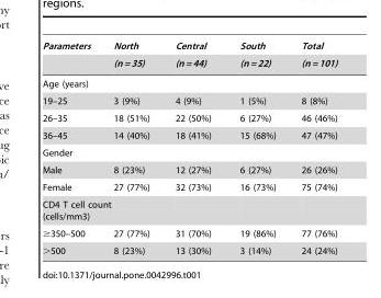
<table><thead><tr><td rowspan="2">Parameters</td><td rowspan="2">North (n = 35)</td><td rowspan="2">Central (n = 44)</td><td rowspan="2">South (n = 22)</td><td rowspan="2">Total (n = 101)</td></tr><tr></tr></thead><tbody><tr><td colspan="5">Age (years)</td></tr><tr><td>19–25</td><td>3 (9%)</td><td>4 (9%)</td><td>1 (5%)</td><td>8 (8%)</td></tr><tr><td>26–35</td><td>18 (51%)</td><td>22 (50%)</td><td>6 (27%)</td><td>46 (46%)</td></tr><tr><td>36–45</td><td>14 (40%)</td><td>18 (41%)</td><td>15 (68%)</td><td>47 (47%)</td></tr><tr><td colspan="5">Gender</td></tr><tr><td>Male</td><td>8 (23%)</td><td>12 (27%)</td><td>6 (27%)</td><td>26 (26%)</td></tr><tr><td>Female</td><td>27 (77%)</td><td>32 (73%)</td><td>16 (73%)</td><td>75 (74%)</td></tr><tr><td colspan="5">CD4 T cell count (cells/mm3)</td></tr><tr><td>≥350–500</td><td>27 (77%)</td><td>31 (70%)</td><td>19 (86%)</td><td>77 (76%)</td></tr><tr><td>&gt;500</td><td>8 (23%)</td><td>13 (30%)</td><td>3 (14%)</td><td>24 (24%)</td></tr></tbody></table>